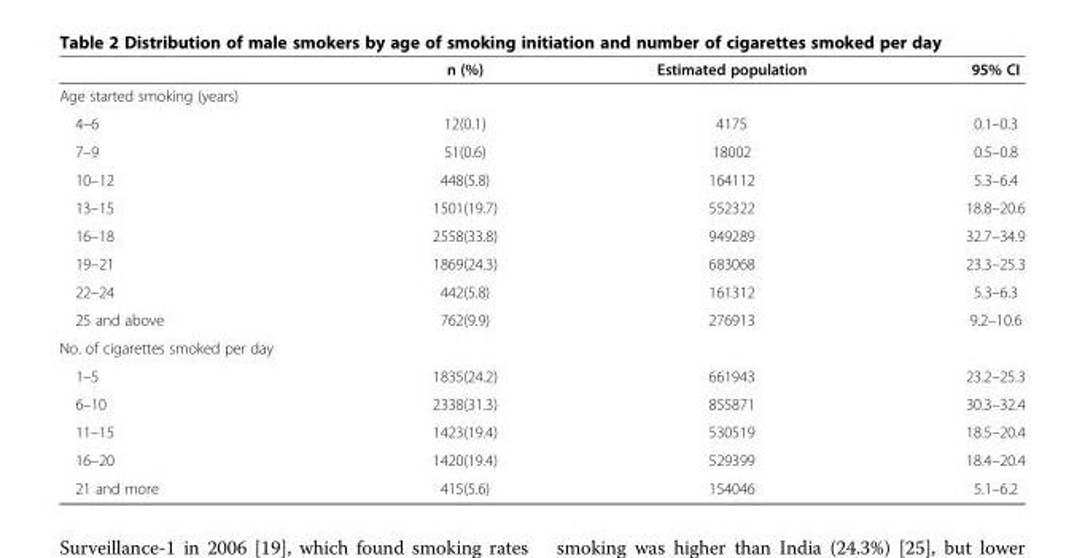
<table><thead><tr><td></td><td>n (%)</td><td>Estimated population</td><td>95% CI</td></tr></thead><tbody><tr><td colspan="4">Age started smoking (years)</td></tr><tr><td>4–6</td><td>12(0.1)</td><td>4175</td><td>0.1–0.3</td></tr><tr><td>7–9</td><td>51(0.6)</td><td>18002</td><td>0.5–0.8</td></tr><tr><td>10–12</td><td>448(5.8)</td><td>164112</td><td>5.3–6.4</td></tr><tr><td>13–15</td><td>1501(19.7)</td><td>552322</td><td>18.8–20.6</td></tr><tr><td>16–18</td><td>2558(33.8)</td><td>949289</td><td>32.7–34.9</td></tr><tr><td>19–21</td><td>1869(24.3)</td><td>683068</td><td>23.3–25.3</td></tr><tr><td>22–24</td><td>442(5.8)</td><td>161312</td><td>5.3–6.3</td></tr><tr><td>25 and above</td><td>762(9.9)</td><td>276913</td><td>9.2–10.6</td></tr><tr><td colspan="4">No. of cigarettes smoked per day</td></tr><tr><td>1–5</td><td>1835(24.2)</td><td>661943</td><td>23.2–25.3</td></tr><tr><td>6–10</td><td>2338(31.3)</td><td>855871</td><td>30.3–32.4</td></tr><tr><td>11–15</td><td>1423(19.4)</td><td>530519</td><td>18.5–20.4</td></tr><tr><td>16–20</td><td>1420(19.4)</td><td>529399</td><td>18.4–20.4</td></tr><tr><td>21 and more</td><td>415(5.6)</td><td>154046</td><td>5.1–6.2</td></tr></tbody></table>